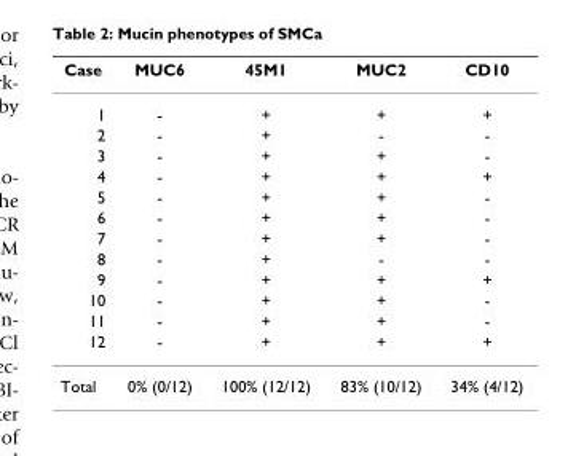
<table><thead><tr><td>Case</td><td>MUC6</td><td>45M1</td><td>MUC2</td><td>CD10</td></tr></thead><tbody><tr><td>1</td><td>-</td><td>+</td><td>+</td><td>+</td></tr><tr><td>2</td><td>-</td><td>+</td><td>-</td><td>-</td></tr><tr><td>3</td><td>-</td><td>+</td><td>+</td><td>-</td></tr><tr><td>4</td><td>-</td><td>+</td><td>+</td><td>+</td></tr><tr><td>5</td><td>-</td><td>+</td><td>+</td><td>-</td></tr><tr><td>6</td><td>-</td><td>+</td><td>+</td><td>-</td></tr><tr><td>7</td><td>-</td><td>+</td><td>+</td><td>-</td></tr><tr><td>8</td><td>-</td><td>+</td><td>-</td><td>-</td></tr><tr><td>9</td><td>-</td><td>+</td><td>+</td><td>+</td></tr><tr><td>10</td><td>-</td><td>+</td><td>+</td><td>-</td></tr><tr><td>11</td><td>-</td><td>+</td><td>+</td><td>-</td></tr><tr><td>12</td><td>-</td><td>+</td><td>+</td><td>+</td></tr><tr><td>Total</td><td>0% (0/12)</td><td>100% (12/12)</td><td>83% (10/12)</td><td>34% (4/12)</td></tr></tbody></table>